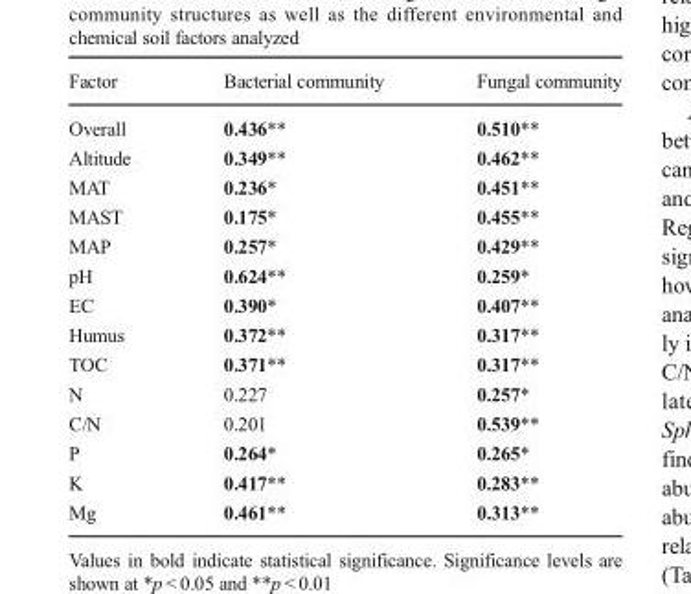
<table><thead><tr><td>Factor</td><td>Bacterial community</td><td>Fungal community</td></tr></thead><tbody><tr><td>Overall</td><td>0.436**</td><td>0.510**</td></tr><tr><td>Altitude</td><td>0.349**</td><td>0.462**</td></tr><tr><td>MAT</td><td>0.236*</td><td>0.451**</td></tr><tr><td>MAST</td><td>0.175*</td><td>0.455**</td></tr><tr><td>MAP</td><td>0.257*</td><td>0.429**</td></tr><tr><td>pH</td><td>0.624**</td><td>0.259*</td></tr><tr><td>EC</td><td>0.390*</td><td>0.407**</td></tr><tr><td>Humus</td><td>0.372**</td><td>0.317**</td></tr><tr><td>TOC</td><td>0.371**</td><td>0.317**</td></tr><tr><td>N</td><td>0.227</td><td>0.257*</td></tr><tr><td>C/N</td><td>0.201</td><td>0.539**</td></tr><tr><td>P</td><td>0.264*</td><td>0.265*</td></tr><tr><td>K</td><td>0.417**</td><td>0.283**</td></tr><tr><td>Mg</td><td>0.461**</td><td>0.313**</td></tr></tbody></table>